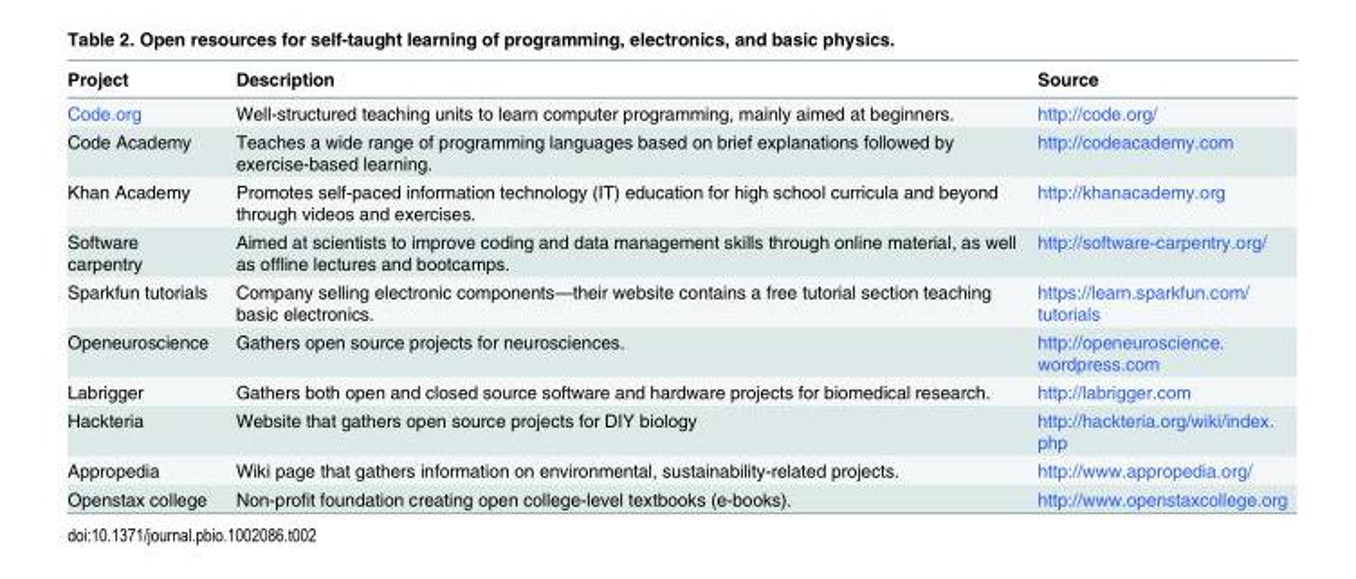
<table><thead><tr><td>Project</td><td>Description</td><td>Source</td></tr></thead><tbody><tr><td>Code.org</td><td>Well-structured teaching units to learn computer programming, mainly aimed at beginners.</td><td>http://code.org/</td></tr><tr><td>Code Academy</td><td>Teaches a wide range of programming languages based on brief explanations followed by exercise-based learning.</td><td>http://codeacademy.com</td></tr><tr><td>Khan Academy</td><td>Promotes self-paced information technology (IT) education for high school curricula and beyond through videos and exercises.</td><td>http://khanacademy.org</td></tr><tr><td>Software carpentry</td><td>Aimed at scientists to improve coding and data management skills through online material, as well as offline lectures and bootcamps.</td><td>http://software-carpentry.org/</td></tr><tr><td>Sparkfun tutorials</td><td>Company selling electronic components—their website contains a free tutorial section teaching basic electronics.</td><td>https://learn.sparkfun.com/ tutorials</td></tr><tr><td>Openeuroscience</td><td>Gathers open source projects for neurosciences.</td><td>http://openeuroscience. wordpress.com</td></tr><tr><td>Labrigger</td><td>Gathers both open and closed source software and hardware projects for biomedical research.</td><td>http://labrigger.com</td></tr><tr><td>Hackteria</td><td>Website that gathers open source projects for DIY biology</td><td>http://hackteria.org/wiki/index. php</td></tr><tr><td>Appropedia</td><td>Wiki page that gathers information on environmental, sustainability-related projects.</td><td>http://www.appropedia.org/</td></tr><tr><td>Openstax college</td><td>Non-profit foundation creating open college-level textbooks (e-books).</td><td>http://www.openstaxcollege.org</td></tr></tbody></table>